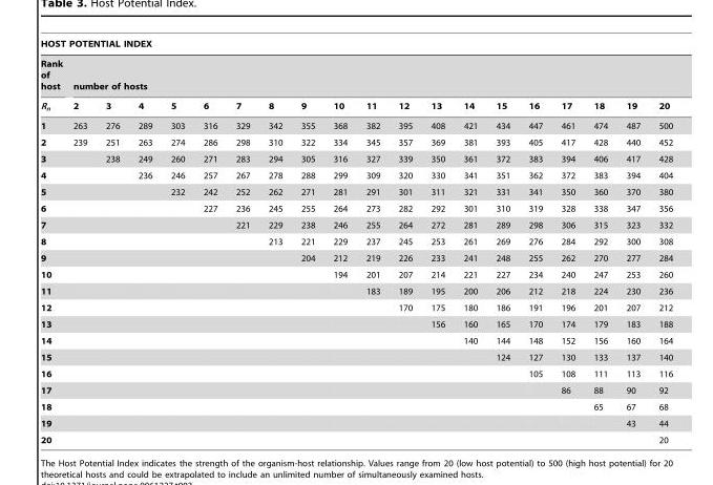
<table><thead><tr><td colspan="20">HOST POTENTIAL INDEX</td></tr><tr><td rowspan="2">Rank of host R<sub>n</sub></td><td colspan="19">number of hosts</td></tr><tr><td>2</td><td>3</td><td>4</td><td>5</td><td>6</td><td>7</td><td>8</td><td>9</td><td>10</td><td>11</td><td>12</td><td>13</td><td>14</td><td>15</td><td>16</td><td>17</td><td>18</td><td>19</td><td>20</td></tr></thead><tbody><tr><td>1</td><td>263</td><td>276</td><td>289</td><td>303</td><td>316</td><td>329</td><td>342</td><td>355</td><td>368</td><td>382</td><td>395</td><td>408</td><td>421</td><td>434</td><td>447</td><td>461</td><td>474</td><td>487</td><td>500</td></tr><tr><td>2</td><td>239</td><td>251</td><td>263</td><td>274</td><td>286</td><td>298</td><td>310</td><td>322</td><td>334</td><td>345</td><td>357</td><td>369</td><td>381</td><td>393</td><td>405</td><td>417</td><td>428</td><td>440</td><td>452</td></tr><tr><td>3</td><td></td><td>238</td><td>249</td><td>260</td><td>271</td><td>283</td><td>294</td><td>305</td><td>316</td><td>327</td><td>339</td><td>350</td><td>361</td><td>372</td><td>383</td><td>394</td><td>406</td><td>417</td><td>428</td></tr><tr><td>4</td><td></td><td></td><td>236</td><td>246</td><td>257</td><td>267</td><td>278</td><td>288</td><td>299</td><td>309</td><td>320</td><td>330</td><td>341</td><td>351</td><td>362</td><td>372</td><td>383</td><td>394</td><td>404</td></tr><tr><td>5</td><td></td><td></td><td></td><td>232</td><td>242</td><td>252</td><td>262</td><td>271</td><td>281</td><td>291</td><td>301</td><td>311</td><td>321</td><td>331</td><td>341</td><td>350</td><td>360</td><td>370</td><td>380</td></tr><tr><td>6</td><td></td><td></td><td></td><td></td><td>227</td><td>236</td><td>245</td><td>255</td><td>264</td><td>273</td><td>282</td><td>292</td><td>301</td><td>310</td><td>319</td><td>328</td><td>338</td><td>347</td><td>356</td></tr><tr><td>7</td><td></td><td></td><td></td><td></td><td></td><td>221</td><td>229</td><td>238</td><td>246</td><td>255</td><td>264</td><td>272</td><td>281</td><td>289</td><td>298</td><td>306</td><td>315</td><td>323</td><td>332</td></tr><tr><td>8</td><td></td><td></td><td></td><td></td><td></td><td></td><td>213</td><td>221</td><td>229</td><td>237</td><td>245</td><td>253</td><td>261</td><td>269</td><td>276</td><td>284</td><td>292</td><td>300</td><td>308</td></tr><tr><td>9</td><td></td><td></td><td></td><td></td><td></td><td></td><td></td><td>204</td><td>212</td><td>219</td><td>226</td><td>233</td><td>241</td><td>248</td><td>255</td><td>262</td><td>270</td><td>277</td><td>284</td></tr><tr><td>10</td><td></td><td></td><td></td><td></td><td></td><td></td><td></td><td></td><td>194</td><td>201</td><td>207</td><td>214</td><td>221</td><td>227</td><td>234</td><td>240</td><td>247</td><td>253</td><td>260</td></tr><tr><td>11</td><td></td><td></td><td></td><td></td><td></td><td></td><td></td><td></td><td></td><td>183</td><td>189</td><td>195</td><td>200</td><td>206</td><td>212</td><td>218</td><td>224</td><td>230</td><td>236</td></tr><tr><td>12</td><td></td><td></td><td></td><td></td><td></td><td></td><td></td><td></td><td></td><td></td><td>170</td><td>175</td><td>180</td><td>186</td><td>191</td><td>196</td><td>201</td><td>207</td><td>212</td></tr><tr><td>13</td><td></td><td></td><td></td><td></td><td></td><td></td><td></td><td></td><td></td><td></td><td></td><td>156</td><td>160</td><td>165</td><td>170</td><td>174</td><td>179</td><td>183</td><td>188</td></tr><tr><td>14</td><td></td><td></td><td></td><td></td><td></td><td></td><td></td><td></td><td></td><td></td><td></td><td></td><td>140</td><td>144</td><td>148</td><td>152</td><td>156</td><td>160</td><td>164</td></tr><tr><td>15</td><td></td><td></td><td></td><td></td><td></td><td></td><td></td><td></td><td></td><td></td><td></td><td></td><td></td><td>124</td><td>127</td><td>130</td><td>133</td><td>137</td><td>140</td></tr><tr><td>16</td><td></td><td></td><td></td><td></td><td></td><td></td><td></td><td></td><td></td><td></td><td></td><td></td><td></td><td></td><td>105</td><td>108</td><td>111</td><td>113</td><td>116</td></tr><tr><td>17</td><td></td><td></td><td></td><td></td><td></td><td></td><td></td><td></td><td></td><td></td><td></td><td></td><td></td><td></td><td></td><td>86</td><td>88</td><td>90</td><td>92</td></tr><tr><td>18</td><td></td><td></td><td></td><td></td><td></td><td></td><td></td><td></td><td></td><td></td><td></td><td></td><td></td><td></td><td></td><td></td><td>65</td><td>67</td><td>68</td></tr><tr><td>19</td><td></td><td></td><td></td><td></td><td></td><td></td><td></td><td></td><td></td><td></td><td></td><td></td><td></td><td></td><td></td><td></td><td></td><td>43</td><td>44</td></tr><tr><td>20</td><td></td><td></td><td></td><td></td><td></td><td></td><td></td><td></td><td></td><td></td><td></td><td></td><td></td><td></td><td></td><td></td><td></td><td></td><td>20</td></tr></tbody></table>